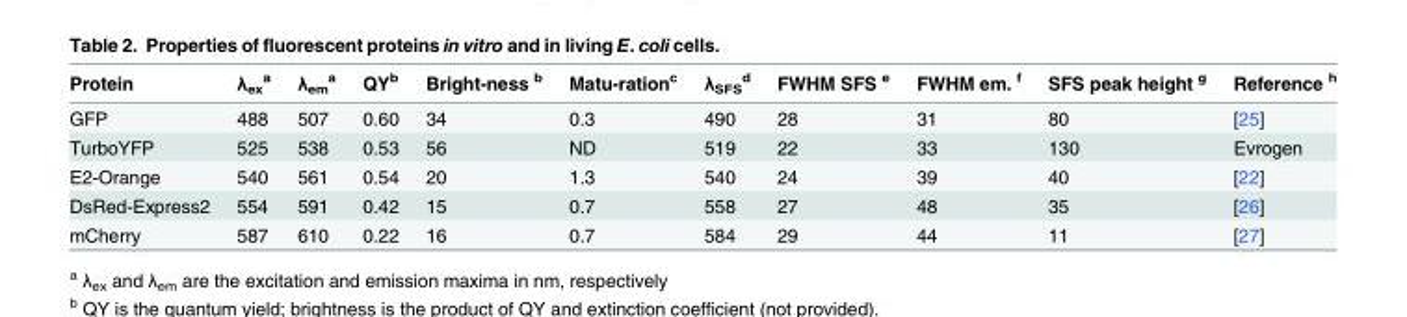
<table><thead><tr><td>Protein</td><td>λ<sub>ex</sub> <sup>a</sup></td><td>λ<sub>em</sub> <sup>a</sup></td><td>QY<sup>b</sup></td><td>Bright-ness <sup>b</sup></td><td>Matu-ration<sup>c</sup></td><td>λ<sub>SFS</sub> <sup>d</sup></td><td>FWHM SFS <sup>e</sup></td><td>FWHM em. <sup>f</sup></td><td>SFS peak height <sup>g</sup></td><td>Reference <sup>h</sup></td></tr></thead><tbody><tr><td>GFP</td><td>488</td><td>507</td><td>0.60</td><td>34</td><td>0.3</td><td>490</td><td>28</td><td>31</td><td>80</td><td>[25]</td></tr><tr><td>TurboYFP</td><td>525</td><td>538</td><td>0.53</td><td>56</td><td>ND</td><td>519</td><td>22</td><td>33</td><td>130</td><td>Evrogen</td></tr><tr><td>E2-Orange</td><td>540</td><td>561</td><td>0.54</td><td>20</td><td>1.3</td><td>540</td><td>24</td><td>39</td><td>40</td><td>[22]</td></tr><tr><td>DsRed-Express2</td><td>554</td><td>591</td><td>0.42</td><td>15</td><td>0.7</td><td>558</td><td>27</td><td>48</td><td>35</td><td>[26]</td></tr><tr><td>mCherry</td><td>587</td><td>610</td><td>0.22</td><td>16</td><td>0.7</td><td>584</td><td>29</td><td>44</td><td>11</td><td>[27]</td></tr></tbody></table>